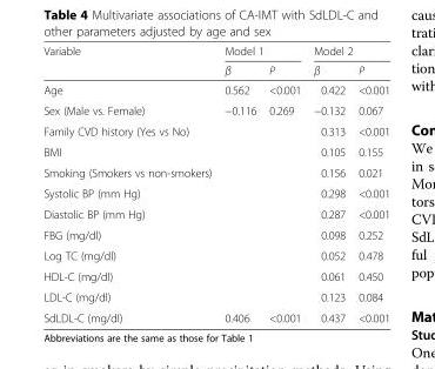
<table><thead><tr><td rowspan="2">Variable</td><td colspan="2">Model 1</td><td colspan="2">Model 2</td></tr><tr><td>β</td><td>P</td><td>β</td><td>P</td></tr></thead><tbody><tr><td>Age</td><td>0.562</td><td>&lt;0.001</td><td>0.422</td><td>&lt;0.001</td></tr><tr><td>Sex (Male vs. Female)</td><td>−0.116</td><td>0.269</td><td>−0.132</td><td>0.067</td></tr><tr><td>Family CVD history (Yes vs No)</td><td></td><td></td><td>0.313</td><td>&lt;0.001</td></tr><tr><td>BMI</td><td></td><td></td><td>0.105</td><td>0.155</td></tr><tr><td>Smoking (Smokers vs non-smokers)</td><td></td><td></td><td>0.156</td><td>0.021</td></tr><tr><td>Systolic BP (mm Hg)</td><td></td><td></td><td>0.298</td><td>&lt;0.001</td></tr><tr><td>Diastolic BP (mm Hg)</td><td></td><td></td><td>0.287</td><td>&lt;0.001</td></tr><tr><td>FBG (mg/dl)</td><td></td><td></td><td>0.098</td><td>0.252</td></tr><tr><td>Log TC (mg/dl)</td><td></td><td></td><td>0.052</td><td>0.478</td></tr><tr><td>HDL-C (mg/dl)</td><td></td><td></td><td>0.061</td><td>0.450</td></tr><tr><td>LDL-C (mg/dl)</td><td></td><td></td><td>0.123</td><td>0.084</td></tr><tr><td>SdLDL-C (mg/dl)</td><td>0.406</td><td>&lt;0.001</td><td>0.437</td><td>&lt;0.001</td></tr></tbody></table>